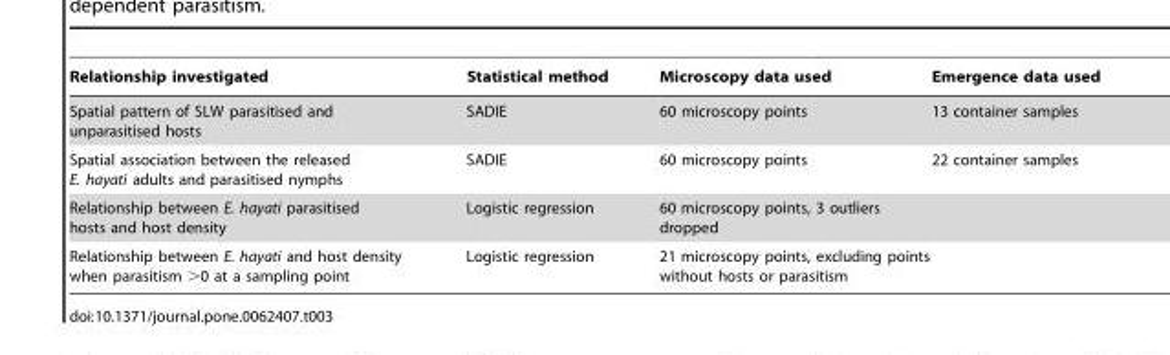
<table><thead><tr><td>Relationship investigated</td><td>Statistical method</td><td>Microscopy data used</td><td>Emergence data used</td></tr></thead><tbody><tr><td>Spatial pattern of SLW parasitised and unparasitised hosts</td><td>SADIE</td><td>60 microscopy points</td><td>13 container samples</td></tr><tr><td>Spatial association between the released E. hayati adults and parasitised nymphs</td><td>SADIE</td><td>60 microscopy points</td><td>22 container samples</td></tr><tr><td>Relationship between E. hayati parasitised hosts and host density</td><td>Logistic regression</td><td>60 microscopy points, 3 outliers dropped</td><td></td></tr><tr><td>Relationship between E. hayati and host density when parasitism &gt;0 at a sampling point</td><td>Logistic regression</td><td>21 microscopy points, excluding points without hosts or parasitism</td><td></td></tr></tbody></table>